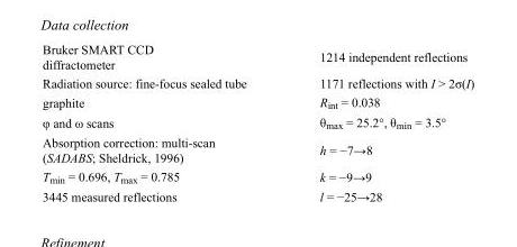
<table><tbody><tr><td>Bruker SMART CCD diffractometer</td><td>1214 independent reflections</td></tr><tr><td>Radiation source: fine-focus sealed tube</td><td>1171 reflections with I &gt; 2σ(I)</td></tr><tr><td>graphite</td><td>R<sub>int</sub> = 0.038</td></tr><tr><td>φ and ω scans</td><td>θ<sub>max</sub> = 25.2°, θ<sub>min</sub> = 3.5°</td></tr><tr><td>Absorption correction: multi-scan (SADABS; Sheldrick, 1996)</td><td>h = −7→8</td></tr><tr><td>T<sub>min</sub> = 0.696, T<sub>max</sub> = 0.785</td><td>k = −9→9</td></tr><tr><td>3445 measured reflections</td><td>l = −25→28</td></tr></tbody></table>